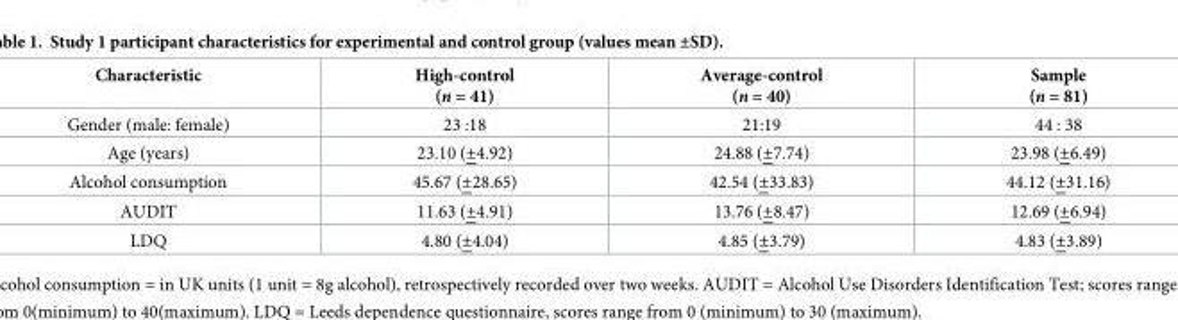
<table><thead><tr><td>Characteristic</td><td>High-control (n = 41)</td><td>Average-control (n = 40)</td><td>Sample (n = 81)</td></tr></thead><tbody><tr><td>Gender (male: female)</td><td>23 :18</td><td>21:19</td><td>44 : 38</td></tr><tr><td>Age (years)</td><td>23.10 (±4.92)</td><td>24.88 (±7.74)</td><td>23.98 (±6.49)</td></tr><tr><td>Alcohol consumption</td><td>45.67 (±28.65)</td><td>42.54 (±33.83)</td><td>44.12 (±31.16)</td></tr><tr><td>AUDIT</td><td>11.63 (±4.91)</td><td>13.76 (±8.47)</td><td>12.69 (±6.94)</td></tr><tr><td>LDQ</td><td>4.80 (±4.04)</td><td>4.85 (±3.79)</td><td>4.83 (±3.89)</td></tr></tbody></table>